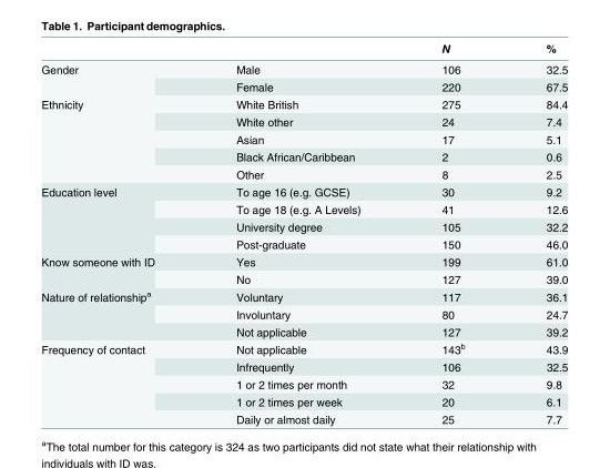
<table><thead><tr><td></td><td></td><td>N</td><td>%</td></tr></thead><tbody><tr><td rowspan="2">Gender</td><td>Male</td><td>106</td><td>32.5</td></tr><tr><td>Female</td><td>220</td><td>67.5</td></tr><tr><td rowspan="5">Ethnicity</td><td>White British</td><td>275</td><td>84.4</td></tr><tr><td>White other</td><td>24</td><td>7.4</td></tr><tr><td>Asian</td><td>17</td><td>5.1</td></tr><tr><td>Black African/Caribbean</td><td>2</td><td>0.6</td></tr><tr><td>Other</td><td>8</td><td>2.5</td></tr><tr><td rowspan="4">Education level</td><td>To age 16 (e.g. GCSE)</td><td>30</td><td>9.2</td></tr><tr><td>To age 18 (e.g. A Levels)</td><td>41</td><td>12.6</td></tr><tr><td>University degree</td><td>105</td><td>32.2</td></tr><tr><td>Post-graduate</td><td>150</td><td>46.0</td></tr><tr><td rowspan="2">Know someone with ID</td><td>Yes</td><td>199</td><td>61.0</td></tr><tr><td>No</td><td>127</td><td>39.0</td></tr><tr><td rowspan="3">Nature of relationship<sup>a</sup></td><td>Voluntary</td><td>117</td><td>36.1</td></tr><tr><td>Involuntary</td><td>80</td><td>24.7</td></tr><tr><td>Not applicable</td><td>127</td><td>39.2</td></tr><tr><td rowspan="5">Frequency of contact</td><td>Not applicable</td><td>143<sup>b</sup></td><td>43.9</td></tr><tr><td>Infrequently</td><td>106</td><td>32.5</td></tr><tr><td>1 or 2 times per month</td><td>32</td><td>9.8</td></tr><tr><td>1 or 2 times per week</td><td>20</td><td>6.1</td></tr><tr><td>Daily or almost daily</td><td>25</td><td>7.7</td></tr></tbody></table>